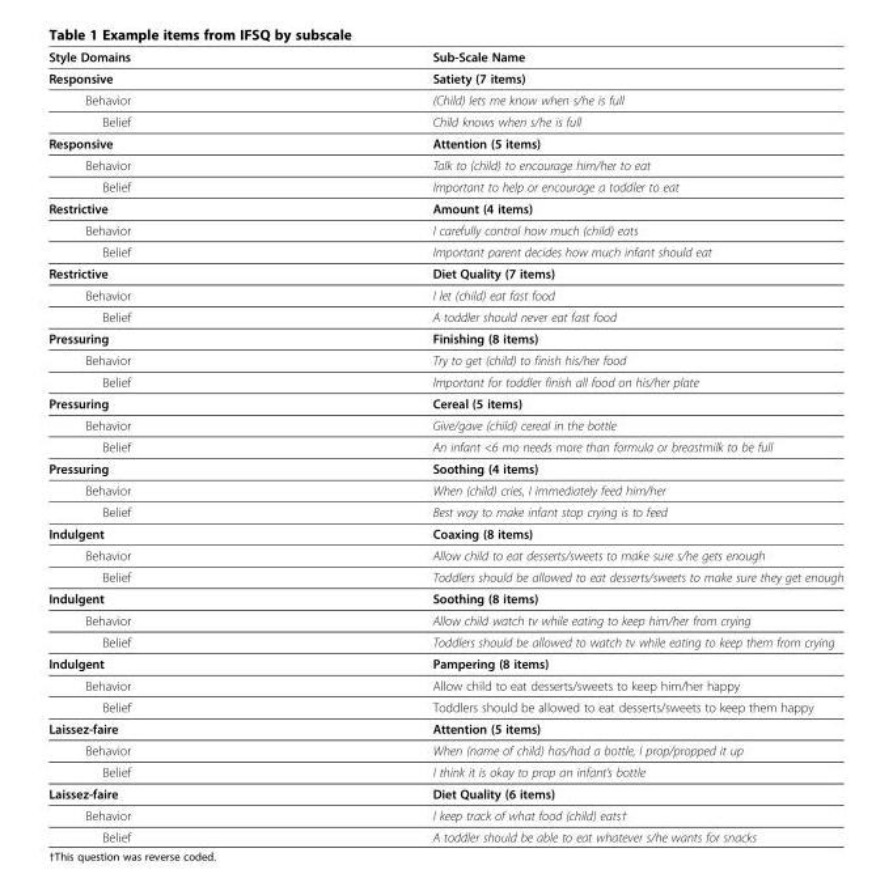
<table><thead><tr><td>Style Domains</td><td>Sub-Scale Name</td></tr></thead><tbody><tr><td>Responsive</td><td>Satiety (7 items)</td></tr><tr><td>Behavior</td><td>(Child) lets me know when s/he is full</td></tr><tr><td>Belief</td><td>Child knows when s/he is full</td></tr><tr><td>Responsive</td><td>Attention (5 items)</td></tr><tr><td>Behavior</td><td>Talk to (child) to encourage him/her to eat</td></tr><tr><td>Belief</td><td>Important to help or encourage a toddler to eat</td></tr><tr><td>Restrictive</td><td>Amount (4 items)</td></tr><tr><td>Behavior</td><td>I carefully control how much (child) eats</td></tr><tr><td>Belief</td><td>Important parent decides how much infant should eat</td></tr><tr><td>Restrictive</td><td>Diet Quality (7 items)</td></tr><tr><td>Behavior</td><td>I let (child) eat fast food</td></tr><tr><td>Belief</td><td>A toddler should never eat fast food</td></tr><tr><td>Pressuring</td><td>Finishing (8 items)</td></tr><tr><td>Behavior</td><td>Try to get (child) to finish his/her food</td></tr><tr><td>Belief</td><td>Important for toddler finish all food on his/her plate</td></tr><tr><td>Pressuring</td><td>Cereal (5 items)</td></tr><tr><td>Behavior</td><td>Give/gave (child) cereal in the bottle</td></tr><tr><td>Belief</td><td>An infant &lt;6 mo needs more than formula or breastmilk to be full</td></tr><tr><td>Pressuring</td><td>Soothing (4 items)</td></tr><tr><td>Behavior</td><td>When (child) cries, I immediately feed him/her</td></tr><tr><td>Belief</td><td>Best way to make infant stop crying is to feed</td></tr><tr><td>Indulgent</td><td>Coaxing (8 items)</td></tr><tr><td>Behavior</td><td>Allow child to eat desserts/sweets to make sure s/he gets enough</td></tr><tr><td>Belief</td><td>Toddlers should be allowed to eat desserts/sweets to make sure they get enough</td></tr><tr><td>Indulgent</td><td>Soothing (8 items)</td></tr><tr><td>Behavior</td><td>Allow child watch tv while eating to keep him/her from crying</td></tr><tr><td>Belief</td><td>Toddlers should be allowed to watch tv while eating to keep them from crying</td></tr><tr><td>Indulgent</td><td>Pampering (8 items)</td></tr><tr><td>Behavior</td><td>Allow child to eat desserts/sweets to keep him/her happy</td></tr><tr><td>Belief</td><td>Toddlers should be allowed to eat desserts/sweets to keep them happy</td></tr><tr><td>Laissez-faire</td><td>Attention (5 items)</td></tr><tr><td>Behavior</td><td>When (name of child) has/had a bottle, I prop/propped it up</td></tr><tr><td>Belief</td><td>I think it is okay to prop an infant’s bottle</td></tr><tr><td>Laissez-faire</td><td>Diet Quality (6 items)</td></tr><tr><td>Behavior</td><td>I keep track of what food (child) eats†</td></tr><tr><td>Belief</td><td>A toddler should be able to eat whatever s/he wants for snacks</td></tr></tbody></table>